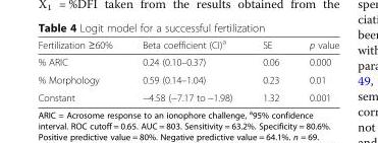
<table><thead><tr><td>Fertilization ≥60%</td><td>Beta coefficient (CI)<sup>a</sup></td><td>SE</td><td>p value</td></tr></thead><tbody><tr><td>% ARIC</td><td>0.24 (0.10–0.37)</td><td>0.06</td><td>0.000</td></tr><tr><td>% Morphology</td><td>0.59 (0.14–1.04)</td><td>0.23</td><td>0.01</td></tr><tr><td>Constant</td><td>−4.58 (−7.17 to −1.98)</td><td>1.32</td><td>0.001</td></tr></tbody></table>